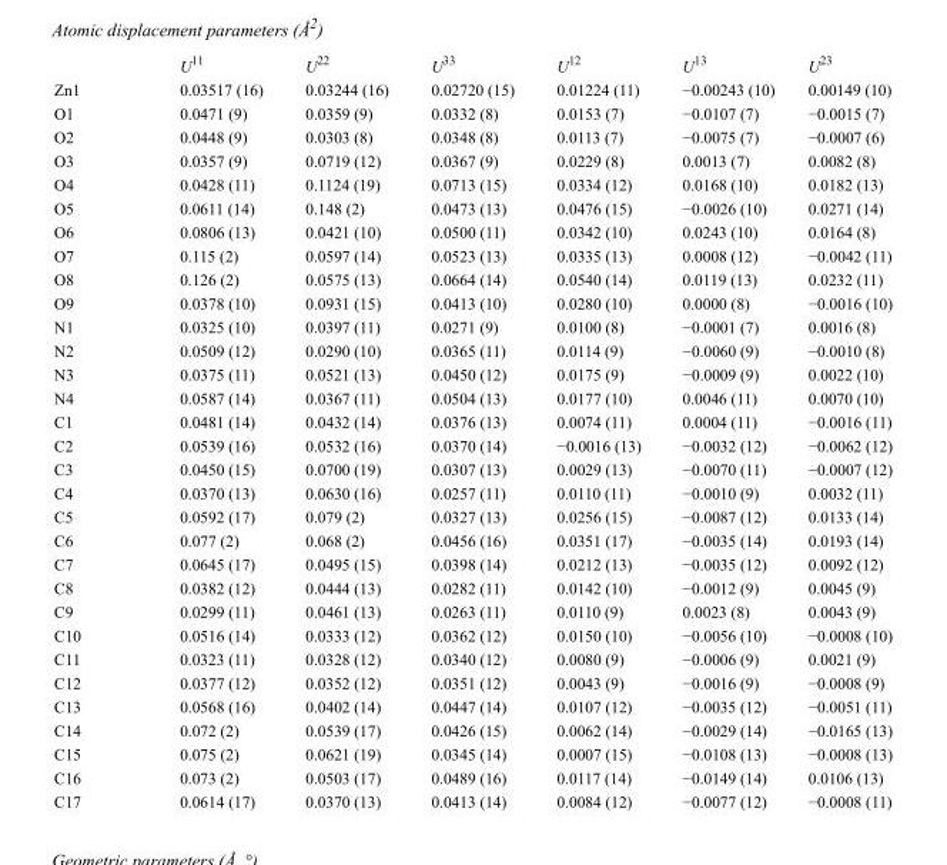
<table><thead><tr><td></td><td>U<sup>11</sup></td><td>U<sup>22</sup></td><td>U<sup>33</sup></td><td>U<sup>12</sup></td><td>U<sup>13</sup></td><td>U<sup>23</sup></td></tr></thead><tbody><tr><td>Zn1</td><td>0.03517 (16)</td><td>0.03244 (16)</td><td>0.02720 (15)</td><td>0.01224 (11)</td><td>−0.00243 (10)</td><td>0.00149 (10)</td></tr><tr><td>O1</td><td>0.0471 (9)</td><td>0.0359 (9)</td><td>0.0332 (8)</td><td>0.0153 (7)</td><td>−0.0107 (7)</td><td>−0.0015 (7)</td></tr><tr><td>O2</td><td>0.0448 (9)</td><td>0.0303 (8)</td><td>0.0348 (8)</td><td>0.0113 (7)</td><td>−0.0075 (7)</td><td>−0.0007 (6)</td></tr><tr><td>O3</td><td>0.0357 (9)</td><td>0.0719 (12)</td><td>0.0367 (9)</td><td>0.0229 (8)</td><td>0.0013 (7)</td><td>0.0082 (8)</td></tr><tr><td>O4</td><td>0.0428 (11)</td><td>0.1124 (19)</td><td>0.0713 (15)</td><td>0.0334 (12)</td><td>0.0168 (10)</td><td>0.0182 (13)</td></tr><tr><td>O5</td><td>0.0611 (14)</td><td>0.148 (2)</td><td>0.0473 (13)</td><td>0.0476 (15)</td><td>−0.0026 (10)</td><td>0.0271 (14)</td></tr><tr><td>O6</td><td>0.0806 (13)</td><td>0.0421 (10)</td><td>0.0500 (11)</td><td>0.0342 (10)</td><td>0.0243 (10)</td><td>0.0164 (8)</td></tr><tr><td>O7</td><td>0.115 (2)</td><td>0.0597 (14)</td><td>0.0523 (13)</td><td>0.0335 (13)</td><td>0.0008 (12)</td><td>−0.0042 (11)</td></tr><tr><td>O8</td><td>0.126 (2)</td><td>0.0575 (13)</td><td>0.0664 (14)</td><td>0.0540 (14)</td><td>0.0119 (13)</td><td>0.0232 (11)</td></tr><tr><td>O9</td><td>0.0378 (10)</td><td>0.0931 (15)</td><td>0.0413 (10)</td><td>0.0280 (10)</td><td>0.0000 (8)</td><td>−0.0016 (10)</td></tr><tr><td>N1</td><td>0.0325 (10)</td><td>0.0397 (11)</td><td>0.0271 (9)</td><td>0.0100 (8)</td><td>−0.0001 (7)</td><td>0.0016 (8)</td></tr><tr><td>N2</td><td>0.0509 (12)</td><td>0.0290 (10)</td><td>0.0365 (11)</td><td>0.0114 (9)</td><td>−0.0060 (9)</td><td>−0.0010 (8)</td></tr><tr><td>N3</td><td>0.0375 (11)</td><td>0.0521 (13)</td><td>0.0450 (12)</td><td>0.0175 (9)</td><td>−0.0009 (9)</td><td>0.0022 (10)</td></tr><tr><td>N4</td><td>0.0587 (14)</td><td>0.0367 (11)</td><td>0.0504 (13)</td><td>0.0177 (10)</td><td>0.0046 (11)</td><td>0.0070 (10)</td></tr><tr><td>C1</td><td>0.0481 (14)</td><td>0.0432 (14)</td><td>0.0376 (13)</td><td>0.0074 (11)</td><td>0.0004 (11)</td><td>−0.0016 (11)</td></tr><tr><td>C2</td><td>0.0539 (16)</td><td>0.0532 (16)</td><td>0.0370 (14)</td><td>−0.0016 (13)</td><td>−0.0032 (12)</td><td>−0.0062 (12)</td></tr><tr><td>C3</td><td>0.0450 (15)</td><td>0.0700 (19)</td><td>0.0307 (13)</td><td>0.0029 (13)</td><td>−0.0070 (11)</td><td>−0.0007 (12)</td></tr><tr><td>C4</td><td>0.0370 (13)</td><td>0.0630 (16)</td><td>0.0257 (11)</td><td>0.0110 (11)</td><td>−0.0010 (9)</td><td>0.0032 (11)</td></tr><tr><td>C5</td><td>0.0592 (17)</td><td>0.079 (2)</td><td>0.0327 (13)</td><td>0.0256 (15)</td><td>−0.0087 (12)</td><td>0.0133 (14)</td></tr><tr><td>C6</td><td>0.077 (2)</td><td>0.068 (2)</td><td>0.0456 (16)</td><td>0.0351 (17)</td><td>−0.0035 (14)</td><td>0.0193 (14)</td></tr><tr><td>C7</td><td>0.0645 (17)</td><td>0.0495 (15)</td><td>0.0398 (14)</td><td>0.0212 (13)</td><td>−0.0035 (12)</td><td>0.0092 (12)</td></tr><tr><td>C8</td><td>0.0382 (12)</td><td>0.0444 (13)</td><td>0.0282 (11)</td><td>0.0142 (10)</td><td>−0.0012 (9)</td><td>0.0045 (9)</td></tr><tr><td>C9</td><td>0.0299 (11)</td><td>0.0461 (13)</td><td>0.0263 (11)</td><td>0.0110 (9)</td><td>0.0023 (8)</td><td>0.0043 (9)</td></tr><tr><td>C10</td><td>0.0516 (14)</td><td>0.0333 (12)</td><td>0.0362 (12)</td><td>0.0150 (10)</td><td>−0.0056 (10)</td><td>−0.0008 (10)</td></tr><tr><td>C11</td><td>0.0323 (11)</td><td>0.0328 (12)</td><td>0.0340 (12)</td><td>0.0080 (9)</td><td>−0.0006 (9)</td><td>0.0021 (9)</td></tr><tr><td>C12</td><td>0.0377 (12)</td><td>0.0352 (12)</td><td>0.0351 (12)</td><td>0.0043 (9)</td><td>−0.0016 (9)</td><td>−0.0008 (9)</td></tr><tr><td>C13</td><td>0.0568 (16)</td><td>0.0402 (14)</td><td>0.0447 (14)</td><td>0.0107 (12)</td><td>−0.0035 (12)</td><td>−0.0051 (11)</td></tr><tr><td>C14</td><td>0.072 (2)</td><td>0.0539 (17)</td><td>0.0426 (15)</td><td>0.0062 (14)</td><td>−0.0029 (14)</td><td>−0.0165 (13)</td></tr><tr><td>C15</td><td>0.075 (2)</td><td>0.0621 (19)</td><td>0.0345 (14)</td><td>0.0007 (15)</td><td>−0.0108 (13)</td><td>−0.0008 (13)</td></tr><tr><td>C16</td><td>0.073 (2)</td><td>0.0503 (17)</td><td>0.0489 (16)</td><td>0.0117 (14)</td><td>−0.0149 (14)</td><td>0.0106 (13)</td></tr><tr><td>C17</td><td>0.0614 (17)</td><td>0.0370 (13)</td><td>0.0413 (14)</td><td>0.0084 (12)</td><td>−0.0077 (12)</td><td>−0.0008 (11)</td></tr></tbody></table>